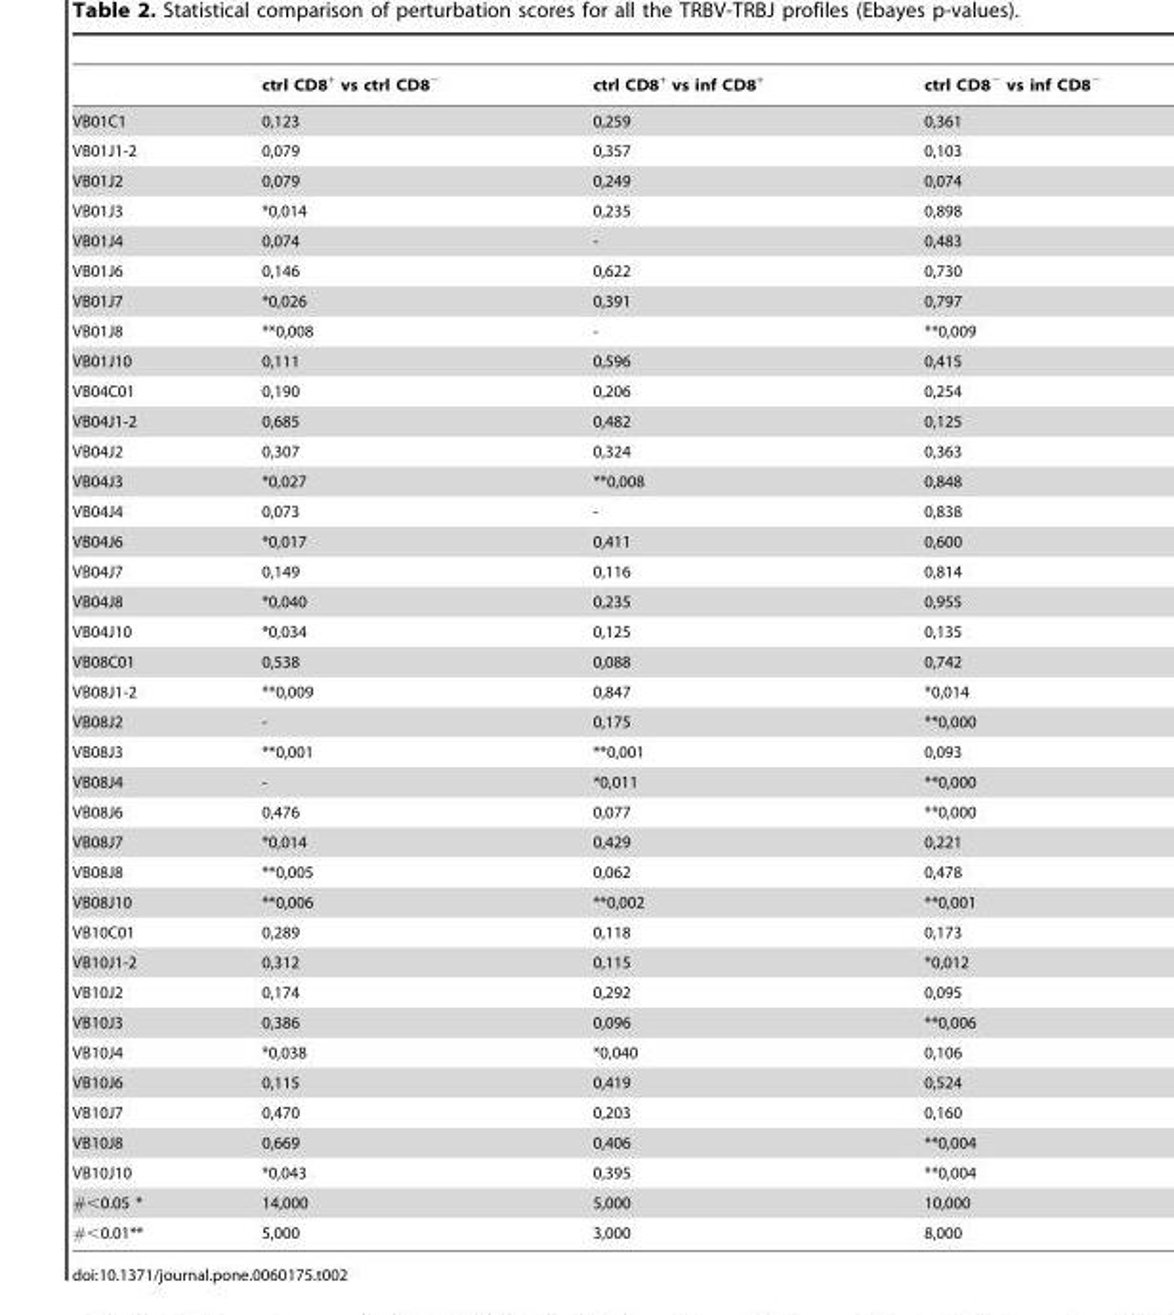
<table><thead><tr><td></td><td>ctrl CD8<sup>+</sup> vs ctrl CD8<sup>−</sup></td><td>ctrl CD8<sup>+</sup> vs inf CD8<sup>+</sup></td><td>ctrl CD8<sup>−</sup> vs inf CD8<sup>−</sup></td></tr></thead><tbody><tr><td>VB01C1</td><td>0,123</td><td>0,259</td><td>0,361</td></tr><tr><td>VB01J1-2</td><td>0,079</td><td>0,357</td><td>0,103</td></tr><tr><td>VB01J2</td><td>0,079</td><td>0,249</td><td>0,074</td></tr><tr><td>VB01J3</td><td>*0,014</td><td>0,235</td><td>0,898</td></tr><tr><td>VB01J4</td><td>0,074</td><td>-</td><td>0,483</td></tr><tr><td>VB01J6</td><td>0,146</td><td>0,622</td><td>0,730</td></tr><tr><td>VB01J7</td><td>*0,026</td><td>0,391</td><td>0,797</td></tr><tr><td>VB01J8</td><td>**0,008</td><td>-</td><td>**0,009</td></tr><tr><td>VB01J10</td><td>0,111</td><td>0,596</td><td>0,415</td></tr><tr><td>VB04C01</td><td>0,190</td><td>0,206</td><td>0,254</td></tr><tr><td>VB04J1-2</td><td>0,685</td><td>0,482</td><td>0,125</td></tr><tr><td>VB04J2</td><td>0,307</td><td>0,324</td><td>0,363</td></tr><tr><td>VB04J3</td><td>*0,027</td><td>**0,008</td><td>0,848</td></tr><tr><td>VB04J4</td><td>0,073</td><td>-</td><td>0,838</td></tr><tr><td>VB04J6</td><td>*0,017</td><td>0,411</td><td>0,600</td></tr><tr><td>VB04J7</td><td>0,149</td><td>0,116</td><td>0,814</td></tr><tr><td>VB04J8</td><td>*0,040</td><td>0,235</td><td>0,955</td></tr><tr><td>VB04J10</td><td>*0,034</td><td>0,125</td><td>0,135</td></tr><tr><td>VB08C01</td><td>0,538</td><td>0,088</td><td>0,742</td></tr><tr><td>VB08J1-2</td><td>**0,009</td><td>0,847</td><td>*0,014</td></tr><tr><td>VB08J2</td><td>-</td><td>0,175</td><td>**0,000</td></tr><tr><td>VB08J3</td><td>**0,001</td><td>**0,001</td><td>0,093</td></tr><tr><td>VB08J4</td><td>-</td><td>*0,011</td><td>**0,000</td></tr><tr><td>VB08J6</td><td>0,476</td><td>0,077</td><td>**0,000</td></tr><tr><td>VB08J7</td><td>*0,014</td><td>0,429</td><td>0,221</td></tr><tr><td>VB08J8</td><td>**0,005</td><td>0,062</td><td>0,478</td></tr><tr><td>VB08J10</td><td>**0,006</td><td>**0,002</td><td>**0,001</td></tr><tr><td>VB10C01</td><td>0,289</td><td>0,118</td><td>0,173</td></tr><tr><td>VB10J1-2</td><td>0,312</td><td>0,115</td><td>*0,012</td></tr><tr><td>VB10J2</td><td>0,174</td><td>0,292</td><td>0,095</td></tr><tr><td>VB10J3</td><td>0,386</td><td>0,096</td><td>**0,006</td></tr><tr><td>VB10J4</td><td>*0,038</td><td>*0,040</td><td>0,106</td></tr><tr><td>VB10J6</td><td>0,115</td><td>0,419</td><td>0,524</td></tr><tr><td>VB10J7</td><td>0,470</td><td>0,203</td><td>0,160</td></tr><tr><td>VB10J8</td><td>0,669</td><td>0,406</td><td>**0,004</td></tr><tr><td>VB10J10</td><td>*0,043</td><td>0,395</td><td>**0,004</td></tr><tr><td>#&lt;0.05 *</td><td>14,000</td><td>5,000</td><td>10,000</td></tr><tr><td>#&lt;0.01**</td><td>5,000</td><td>3,000</td><td>8,000</td></tr></tbody></table>